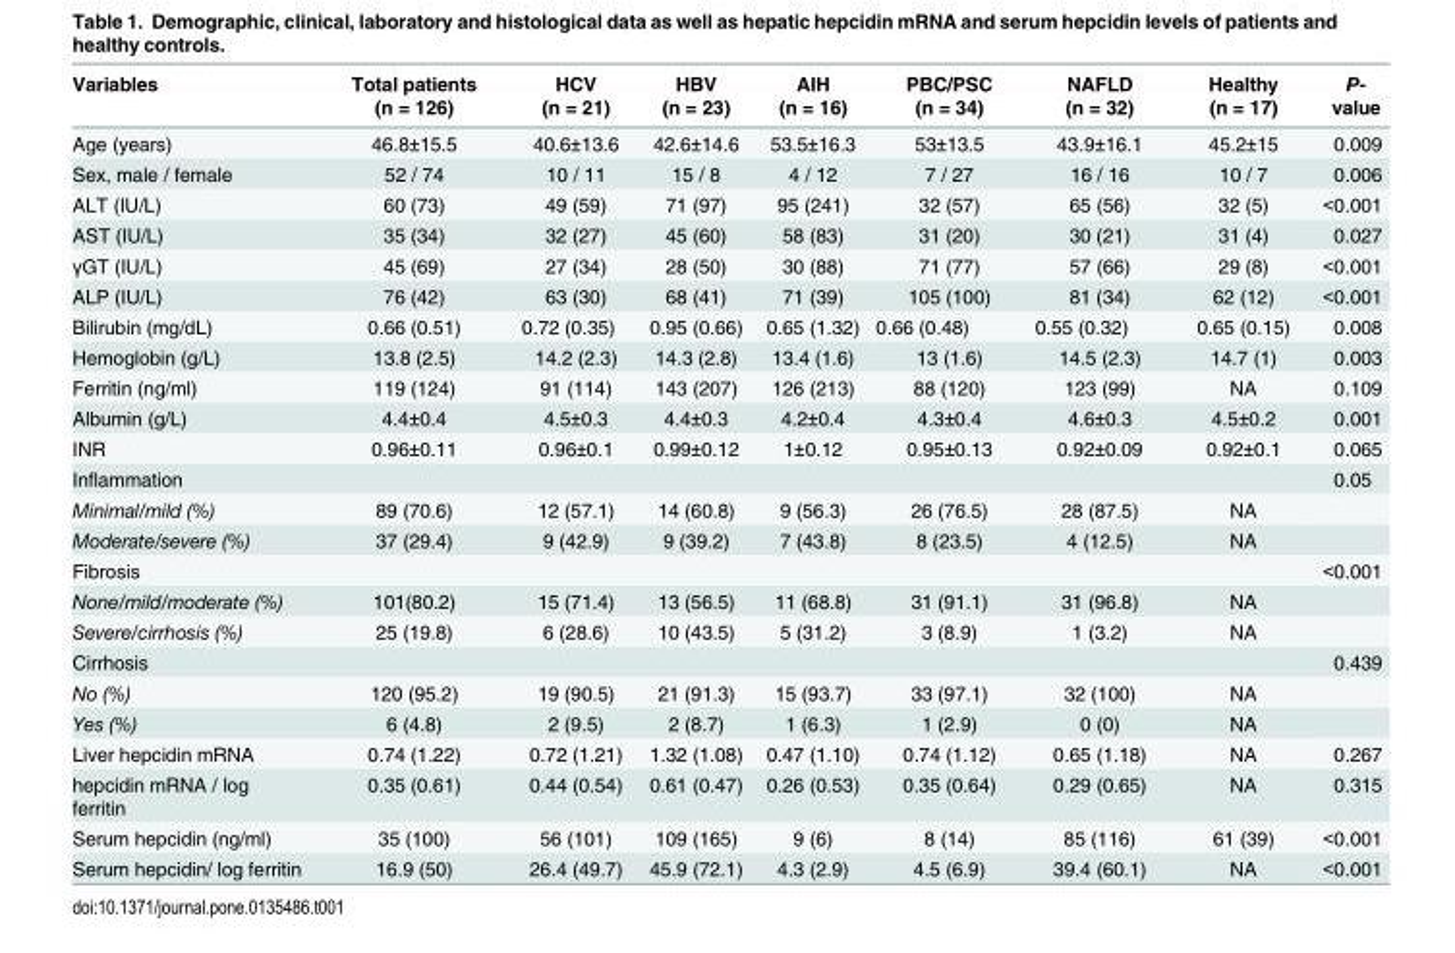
<table><thead><tr><td>Variables</td><td>Total patients (n = 126)</td><td>HCV (n = 21)</td><td>HBV (n = 23)</td><td>AIH (n = 16)</td><td>PBC/PSC (n = 34)</td><td>NAFLD (n = 32)</td><td>Healthy (n = 17)</td><td>P- value</td></tr></thead><tbody><tr><td>Age (years)</td><td>46.8±15.5</td><td>40.6±13.6</td><td>42.6±14.6</td><td>53.5±16.3</td><td>53±13.5</td><td>43.9±16.1</td><td>45.2±15</td><td>0.009</td></tr><tr><td>Sex, male / female</td><td>52 / 74</td><td>10 / 11</td><td>15 / 8</td><td>4 / 12</td><td>7 / 27</td><td>16 / 16</td><td>10 / 7</td><td>0.006</td></tr><tr><td>ALT (IU/L)</td><td>60 (73)</td><td>49 (59)</td><td>71 (97)</td><td>95 (241)</td><td>32 (57)</td><td>65 (56)</td><td>32 (5)</td><td>&lt;0.001</td></tr><tr><td>AST (IU/L)</td><td>35 (34)</td><td>32 (27)</td><td>45 (60)</td><td>58 (83)</td><td>31 (20)</td><td>30 (21)</td><td>31 (4)</td><td>0.027</td></tr><tr><td>γGT (IU/L)</td><td>45 (69)</td><td>27 (34)</td><td>28 (50)</td><td>30 (88)</td><td>71 (77)</td><td>57 (66)</td><td>29 (8)</td><td>&lt;0.001</td></tr><tr><td>ALP (IU/L)</td><td>76 (42)</td><td>63 (30)</td><td>68 (41)</td><td>71 (39)</td><td>105 (100)</td><td>81 (34)</td><td>62 (12)</td><td>&lt;0.001</td></tr><tr><td>Bilirubin (mg/dL)</td><td>0.66 (0.51)</td><td>0.72 (0.35)</td><td>0.95 (0.66)</td><td>0.65 (1.32)</td><td>0.66 (0.48)</td><td>0.55 (0.32)</td><td>0.65 (0.15)</td><td>0.008</td></tr><tr><td>Hemoglobin (g/L)</td><td>13.8 (2.5)</td><td>14.2 (2.3)</td><td>14.3 (2.8)</td><td>13.4 (1.6)</td><td>13 (1.6)</td><td>14.5 (2.3)</td><td>14.7 (1)</td><td>0.003</td></tr><tr><td>Ferritin (ng/ml)</td><td>119 (124)</td><td>91 (114)</td><td>143 (207)</td><td>126 (213)</td><td>88 (120)</td><td>123 (99)</td><td>NA</td><td>0.109</td></tr><tr><td>Albumin (g/L)</td><td>4.4±0.4</td><td>4.5±0.3</td><td>4.4±0.3</td><td>4.2±0.4</td><td>4.3±0.4</td><td>4.6±0.3</td><td>4.5±0.2</td><td>0.001</td></tr><tr><td>INR</td><td>0.96±0.11</td><td>0.96±0.1</td><td>0.99±0.12</td><td>1±0.12</td><td>0.95±0.13</td><td>0.92±0.09</td><td>0.92±0.1</td><td>0.065</td></tr><tr><td>Inflammation</td><td></td><td></td><td></td><td></td><td></td><td></td><td></td><td>0.05</td></tr><tr><td>Minimal/mild (%)</td><td>89 (70.6)</td><td>12 (57.1)</td><td>14 (60.8)</td><td>9 (56.3)</td><td>26 (76.5)</td><td>28 (87.5)</td><td>NA</td><td></td></tr><tr><td>Moderate/severe (%)</td><td>37 (29.4)</td><td>9 (42.9)</td><td>9 (39.2)</td><td>7 (43.8)</td><td>8 (23.5)</td><td>4 (12.5)</td><td>NA</td><td></td></tr><tr><td>Fibrosis</td><td></td><td></td><td></td><td></td><td></td><td></td><td></td><td>&lt;0.001</td></tr><tr><td>None/mild/moderate (%)</td><td>101(80.2)</td><td>15 (71.4)</td><td>13 (56.5)</td><td>11 (68.8)</td><td>31 (91.1)</td><td>31 (96.8)</td><td>NA</td><td></td></tr><tr><td>Severe/cirrhosis (%)</td><td>25 (19.8)</td><td>6 (28.6)</td><td>10 (43.5)</td><td>5 (31.2)</td><td>3 (8.9)</td><td>1 (3.2)</td><td>NA</td><td></td></tr><tr><td>Cirrhosis</td><td></td><td></td><td></td><td></td><td></td><td></td><td></td><td>0.439</td></tr><tr><td>No (%)</td><td>120 (95.2)</td><td>19 (90.5)</td><td>21 (91.3)</td><td>15 (93.7)</td><td>33 (97.1)</td><td>32 (100)</td><td>NA</td><td></td></tr><tr><td>Yes (%)</td><td>6 (4.8)</td><td>2 (9.5)</td><td>2 (8.7)</td><td>1 (6.3)</td><td>1 (2.9)</td><td>0 (0)</td><td>NA</td><td></td></tr><tr><td>Liver hepcidin mRNA</td><td>0.74 (1.22)</td><td>0.72 (1.21)</td><td>1.32 (1.08)</td><td>0.47 (1.10)</td><td>0.74 (1.12)</td><td>0.65 (1.18)</td><td>NA</td><td>0.267</td></tr><tr><td>hepcidin mRNA / log ferritin</td><td>0.35 (0.61)</td><td>0.44 (0.54)</td><td>0.61 (0.47)</td><td>0.26 (0.53)</td><td>0.35 (0.64)</td><td>0.29 (0.65)</td><td>NA</td><td>0.315</td></tr><tr><td>Serum hepcidin (ng/ml)</td><td>35 (100)</td><td>56 (101)</td><td>109 (165)</td><td>9 (6)</td><td>8 (14)</td><td>85 (116)</td><td>61 (39)</td><td>&lt;0.001</td></tr><tr><td>Serum hepcidin/ log ferritin</td><td>16.9 (50)</td><td>26.4 (49.7)</td><td>45.9 (72.1)</td><td>4.3 (2.9)</td><td>4.5 (6.9)</td><td>39.4 (60.1)</td><td>NA</td><td>&lt;0.001</td></tr></tbody></table>